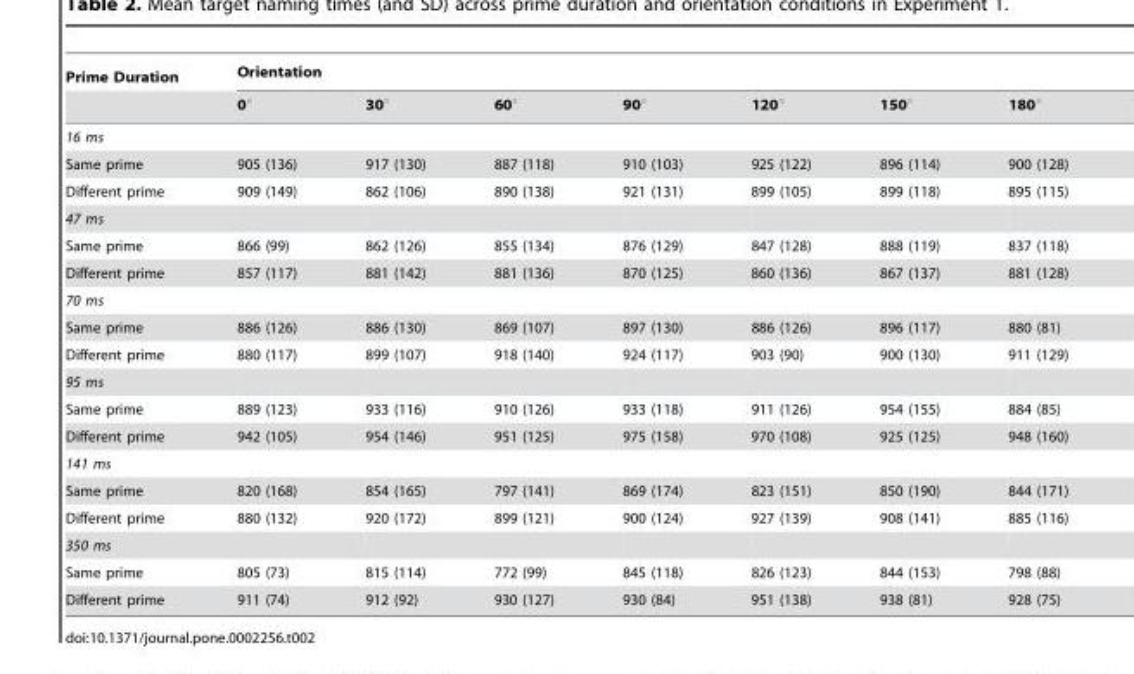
<table><thead><tr><td rowspan="2">Prime Duration</td><td colspan="7">Orientation</td></tr><tr><td>0°</td><td>30°</td><td>60°</td><td>90°</td><td>120°</td><td>150°</td><td>180°</td></tr></thead><tbody><tr><td colspan="8">16 ms</td></tr><tr><td>Same prime</td><td>905 (136)</td><td>917 (130)</td><td>887 (118)</td><td>910 (103)</td><td>925 (122)</td><td>896 (114)</td><td>900 (128)</td></tr><tr><td>Different prime</td><td>909 (149)</td><td>862 (106)</td><td>890 (138)</td><td>921 (131)</td><td>899 (105)</td><td>899 (118)</td><td>895 (115)</td></tr><tr><td colspan="8">47 ms</td></tr><tr><td>Same prime</td><td>866 (99)</td><td>862 (126)</td><td>855 (134)</td><td>876 (129)</td><td>847 (128)</td><td>888 (119)</td><td>837 (118)</td></tr><tr><td>Different prime</td><td>857 (117)</td><td>881 (142)</td><td>881 (136)</td><td>870 (125)</td><td>860 (136)</td><td>867 (137)</td><td>881 (128)</td></tr><tr><td colspan="8">70 ms</td></tr><tr><td>Same prime</td><td>886 (126)</td><td>886 (130)</td><td>869 (107)</td><td>897 (130)</td><td>886 (126)</td><td>896 (117)</td><td>880 (81)</td></tr><tr><td>Different prime</td><td>880 (117)</td><td>899 (107)</td><td>918 (140)</td><td>924 (117)</td><td>903 (90)</td><td>900 (130)</td><td>911 (129)</td></tr><tr><td colspan="8">95 ms</td></tr><tr><td>Same prime</td><td>889 (123)</td><td>933 (116)</td><td>910 (126)</td><td>933 (118)</td><td>911 (126)</td><td>954 (155)</td><td>884 (85)</td></tr><tr><td>Different prime</td><td>942 (105)</td><td>954 (146)</td><td>951 (125)</td><td>975 (158)</td><td>970 (108)</td><td>925 (125)</td><td>948 (160)</td></tr><tr><td colspan="8">141 ms</td></tr><tr><td>Same prime</td><td>820 (168)</td><td>854 (165)</td><td>797 (141)</td><td>869 (174)</td><td>823 (151)</td><td>850 (190)</td><td>844 (171)</td></tr><tr><td>Different prime</td><td>880 (132)</td><td>920 (172)</td><td>899 (121)</td><td>900 (124)</td><td>927 (139)</td><td>908 (141)</td><td>885 (116)</td></tr><tr><td colspan="8">350 ms</td></tr><tr><td>Same prime</td><td>805 (73)</td><td>815 (114)</td><td>772 (99)</td><td>845 (118)</td><td>826 (123)</td><td>844 (153)</td><td>798 (88)</td></tr><tr><td>Different prime</td><td>911 (74)</td><td>912 (92)</td><td>930 (127)</td><td>930 (84)</td><td>951 (138)</td><td>938 (81)</td><td>928 (75)</td></tr></tbody></table>